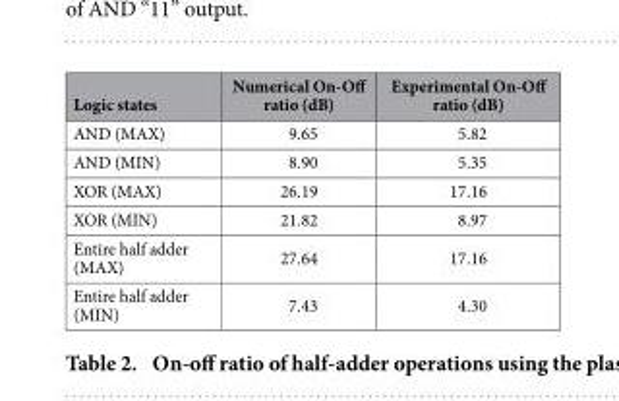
<table><thead><tr><td>Logic states</td><td>Numerical On-Off ratio (dB)</td><td>Experimental On-Off ratio (dB)</td></tr></thead><tbody><tr><td>AND (MAX)</td><td>9.65</td><td>5.82</td></tr><tr><td>AND (MIN)</td><td>8.90</td><td>5.35</td></tr><tr><td>XOR (MAX)</td><td>26.19</td><td>17.16</td></tr><tr><td>XOR (MIN)</td><td>21.82</td><td>8.97</td></tr><tr><td>Entire half adder (MAX)</td><td>27.64</td><td>17.16</td></tr><tr><td>Entire half adder (MIN)</td><td>7.43</td><td>4.30</td></tr></tbody></table>